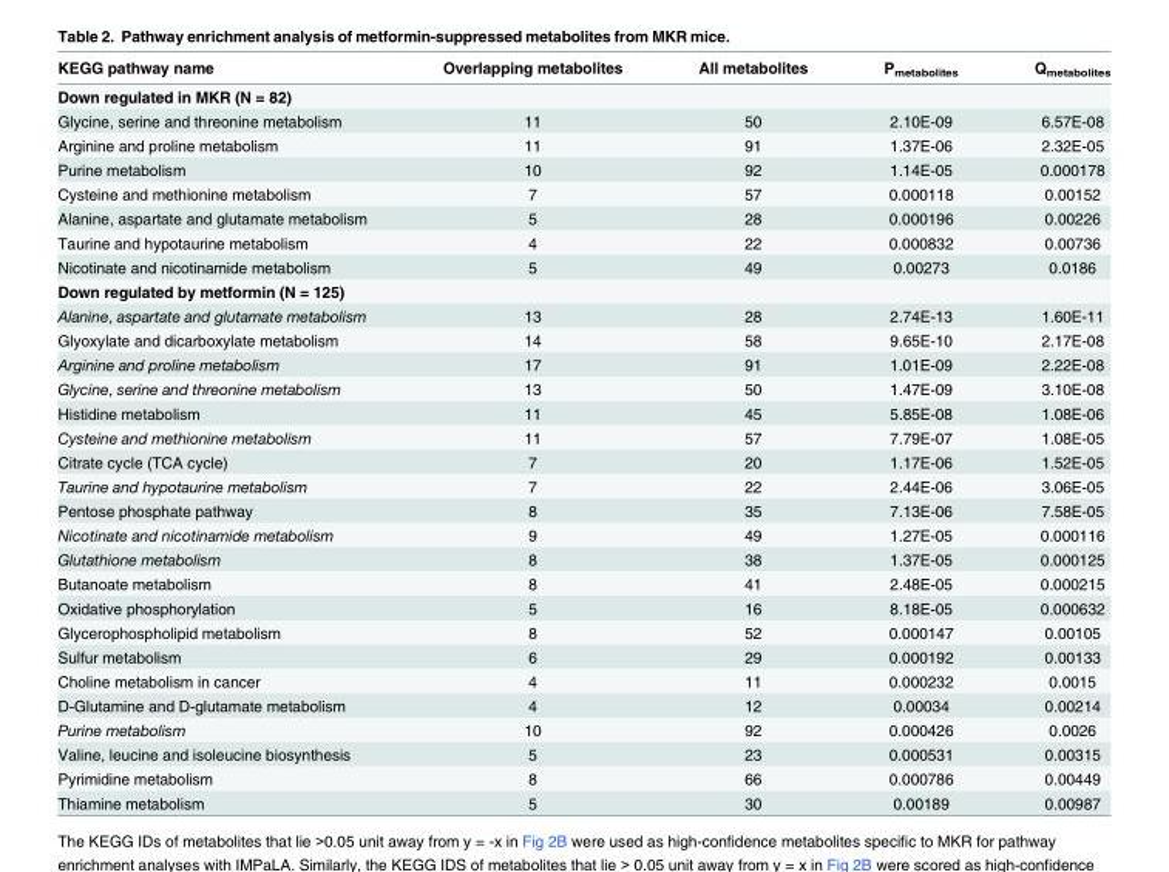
<table><thead><tr><td>KEGG pathway name</td><td>Overlapping metabolites</td><td>All metabolites</td><td>P<sub>metabolites</sub></td><td>Q<sub>metabolites</sub></td></tr></thead><tbody><tr><td colspan="5">Down regulated in MKR (N = 82)</td></tr><tr><td>Glycine, serine and threonine metabolism</td><td>11</td><td>50</td><td>2.10E-09</td><td>6.57E-08</td></tr><tr><td>Arginine and proline metabolism</td><td>11</td><td>91</td><td>1.37E-06</td><td>2.32E-05</td></tr><tr><td>Purine metabolism</td><td>10</td><td>92</td><td>1.14E-05</td><td>0.000178</td></tr><tr><td>Cysteine and methionine metabolism</td><td>7</td><td>57</td><td>0.000118</td><td>0.00152</td></tr><tr><td>Alanine, aspartate and glutamate metabolism</td><td>5</td><td>28</td><td>0.000196</td><td>0.00226</td></tr><tr><td>Taurine and hypotaurine metabolism</td><td>4</td><td>22</td><td>0.000832</td><td>0.00736</td></tr><tr><td>Nicotinate and nicotinamide metabolism</td><td>5</td><td>49</td><td>0.00273</td><td>0.0186</td></tr><tr><td colspan="5">Down regulated by metformin (N = 125)</td></tr><tr><td>Alanine, aspartate and glutamate metabolism</td><td>13</td><td>28</td><td>2.74E-13</td><td>1.60E-11</td></tr><tr><td>Glyoxylate and dicarboxylate metabolism</td><td>14</td><td>58</td><td>9.65E-10</td><td>2.17E-08</td></tr><tr><td>Arginine and proline metabolism</td><td>17</td><td>91</td><td>1.01E-09</td><td>2.22E-08</td></tr><tr><td>Glycine, serine and threonine metabolism</td><td>13</td><td>50</td><td>1.47E-09</td><td>3.10E-08</td></tr><tr><td>Histidine metabolism</td><td>11</td><td>45</td><td>5.85E-08</td><td>1.08E-06</td></tr><tr><td>Cysteine and methionine metabolism</td><td>11</td><td>57</td><td>7.79E-07</td><td>1.08E-05</td></tr><tr><td>Citrate cycle (TCA cycle)</td><td>7</td><td>20</td><td>1.17E-06</td><td>1.52E-05</td></tr><tr><td>Taurine and hypotaurine metabolism</td><td>7</td><td>22</td><td>2.44E-06</td><td>3.06E-05</td></tr><tr><td>Pentose phosphate pathway</td><td>8</td><td>35</td><td>7.13E-06</td><td>7.58E-05</td></tr><tr><td>Nicotinate and nicotinamide metabolism</td><td>9</td><td>49</td><td>1.27E-05</td><td>0.000116</td></tr><tr><td>Glutathione metabolism</td><td>8</td><td>38</td><td>1.37E-05</td><td>0.000125</td></tr><tr><td>Butanoate metabolism</td><td>8</td><td>41</td><td>2.48E-05</td><td>0.000215</td></tr><tr><td>Oxidative phosphorylation</td><td>5</td><td>16</td><td>8.18E-05</td><td>0.000632</td></tr><tr><td>Glycerophospholipid metabolism</td><td>8</td><td>52</td><td>0.000147</td><td>0.00105</td></tr><tr><td>Sulfur metabolism</td><td>6</td><td>29</td><td>0.000192</td><td>0.00133</td></tr><tr><td>Choline metabolism in cancer</td><td>4</td><td>11</td><td>0.000232</td><td>0.0015</td></tr><tr><td>D-Glutamine and D-glutamate metabolism</td><td>4</td><td>12</td><td>0.00034</td><td>0.00214</td></tr><tr><td>Purine metabolism</td><td>10</td><td>92</td><td>0.000426</td><td>0.0026</td></tr><tr><td>Valine, leucine and isoleucine biosynthesis</td><td>5</td><td>23</td><td>0.000531</td><td>0.00315</td></tr><tr><td>Pyrimidine metabolism</td><td>8</td><td>66</td><td>0.000786</td><td>0.00449</td></tr><tr><td>Thiamine metabolism</td><td>5</td><td>30</td><td>0.00189</td><td>0.00987</td></tr></tbody></table>